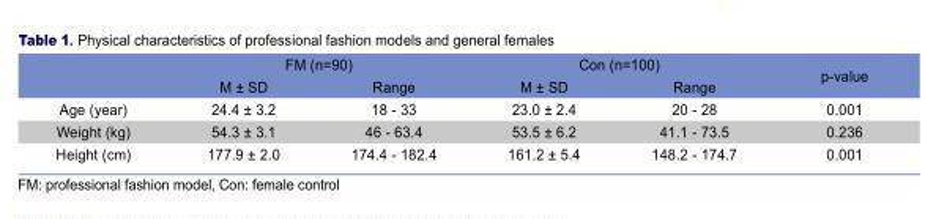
<table><thead><tr><td rowspan="2"></td><td colspan="2">FM (n=90)</td><td colspan="2">Con (n=100)</td><td rowspan="2">p-value</td></tr><tr><td>M ± SD</td><td>Range</td><td>M ± SD</td><td>Range</td></tr></thead><tbody><tr><td>Age (year)</td><td>24.4 ± 3.2</td><td>18 - 33</td><td>23.0 ± 2.4</td><td>20 - 28</td><td>0.001</td></tr><tr><td>Weight (kg)</td><td>54.3 ± 3.1</td><td>46 - 63.4</td><td>53.5 ± 6.2</td><td>41.1 - 73.5</td><td>0.236</td></tr><tr><td>Height (cm)</td><td>177.9 ± 2.0</td><td>174.4 - 182.4</td><td>161.2 ± 5.4</td><td>148.2 - 174.7</td><td>0.001</td></tr></tbody></table>